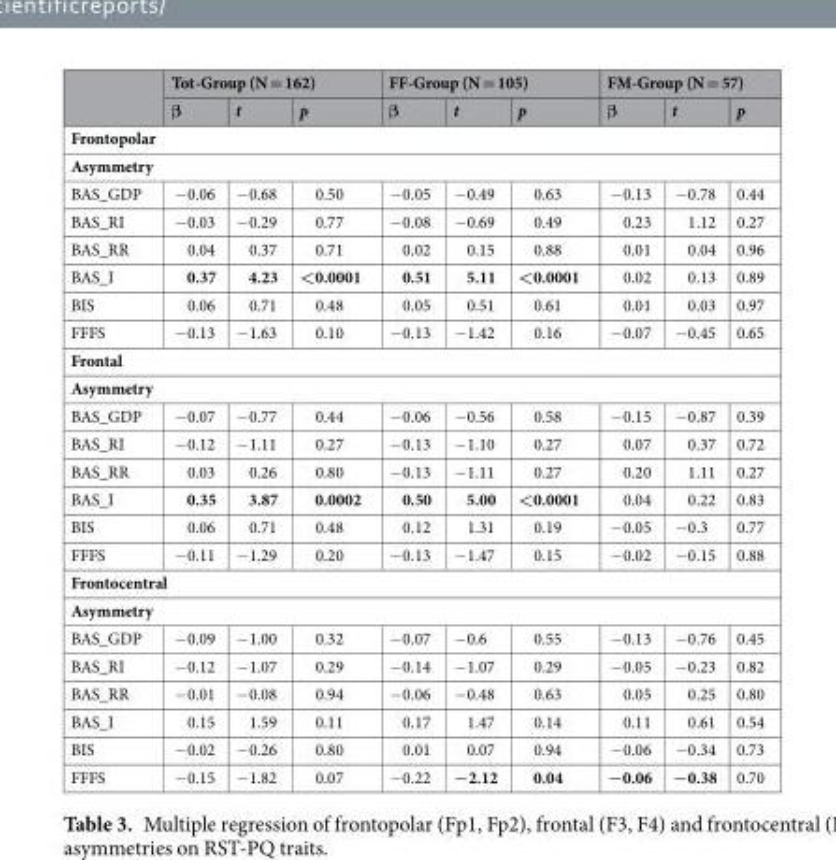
<table><thead><tr><td rowspan="2"></td><td colspan="3">Tot-Group (N = 162)</td><td colspan="3">FF-Group (N = 105)</td><td colspan="3">FM-Group (N = 57)</td></tr><tr><td>β</td><td>t</td><td>p</td><td>β</td><td>t</td><td>p</td><td>β</td><td>t</td><td>p</td></tr></thead><tbody><tr><td colspan="10">Frontopolar</td></tr><tr><td colspan="10">Asymmetry</td></tr><tr><td>BAS_GDP</td><td>−0.06</td><td>−0.68</td><td>0.50</td><td>−0.05</td><td>−0.49</td><td>0.63</td><td>−0.13</td><td>−0.78</td><td>0.44</td></tr><tr><td>BAS_RI</td><td>−0.03</td><td>−0.29</td><td>0.77</td><td>−0.08</td><td>−0.69</td><td>0.49</td><td>0.23</td><td>1.12</td><td>0.27</td></tr><tr><td>BAS_RR</td><td>0.04</td><td>0.37</td><td>0.71</td><td>0.02</td><td>0.15</td><td>0.88</td><td>0.01</td><td>0.04</td><td>0.96</td></tr><tr><td>BAS_I</td><td>0.37</td><td>4.23</td><td>&lt;0.0001</td><td>0.51</td><td>5.11</td><td>&lt;0.0001</td><td>0.02</td><td>0.13</td><td>0.89</td></tr><tr><td>BIS</td><td>0.06</td><td>0.71</td><td>0.48</td><td>0.05</td><td>0.51</td><td>0.61</td><td>0.01</td><td>0.03</td><td>0.97</td></tr><tr><td>FFFS</td><td>−0.13</td><td>−1.63</td><td>0.10</td><td>−0.13</td><td>−1.42</td><td>0.16</td><td>−0.07</td><td>−0.45</td><td>0.65</td></tr><tr><td colspan="10">Frontal</td></tr><tr><td colspan="10">Asymmetry</td></tr><tr><td>BAS_GDP</td><td>−0.07</td><td>−0.77</td><td>0.44</td><td>−0.06</td><td>−0.56</td><td>0.58</td><td>−0.15</td><td>−0.87</td><td>0.39</td></tr><tr><td>BAS_RI</td><td>−0.12</td><td>−1.11</td><td>0.27</td><td>−0.13</td><td>−1.10</td><td>0.27</td><td>0.07</td><td>0.37</td><td>0.72</td></tr><tr><td>BAS_RR</td><td>0.03</td><td>0.26</td><td>0.80</td><td>−0.13</td><td>−1.11</td><td>0.27</td><td>0.20</td><td>1.11</td><td>0.27</td></tr><tr><td>BAS_I</td><td>0.35</td><td>3.87</td><td>0.0002</td><td>0.50</td><td>5.00</td><td>&lt;0.0001</td><td>0.04</td><td>0.22</td><td>0.83</td></tr><tr><td>BIS</td><td>0.06</td><td>0.71</td><td>0.48</td><td>0.12</td><td>1.31</td><td>0.19</td><td>−0.05</td><td>−0.3</td><td>0.77</td></tr><tr><td>FFFS</td><td>−0.11</td><td>−1.29</td><td>0.20</td><td>−0.13</td><td>−1.47</td><td>0.15</td><td>−0.02</td><td>−0.15</td><td>0.88</td></tr><tr><td colspan="10">Frontocentral</td></tr><tr><td colspan="10">Asymmetry</td></tr><tr><td>BAS_GDP</td><td>−0.09</td><td>−1.00</td><td>0.32</td><td>−0.07</td><td>−0.6</td><td>0.55</td><td>−0.13</td><td>−0.76</td><td>0.45</td></tr><tr><td>BAS_RI</td><td>−0.12</td><td>−1.07</td><td>0.29</td><td>−0.14</td><td>−1.07</td><td>0.29</td><td>−0.05</td><td>−0.23</td><td>0.82</td></tr><tr><td>BAS_RR</td><td>−0.01</td><td>−0.08</td><td>0.94</td><td>−0.06</td><td>−0.48</td><td>0.63</td><td>0.05</td><td>0.25</td><td>0.80</td></tr><tr><td>BAS_I</td><td>0.15</td><td>1.59</td><td>0.11</td><td>0.17</td><td>1.47</td><td>0.14</td><td>0.11</td><td>0.61</td><td>0.54</td></tr><tr><td>BIS</td><td>−0.02</td><td>−0.26</td><td>0.80</td><td>0.01</td><td>0.07</td><td>0.94</td><td>−0.06</td><td>−0.34</td><td>0.73</td></tr><tr><td>FFFS</td><td>−0.15</td><td>−1.82</td><td>0.07</td><td>−0.22</td><td>−2.12</td><td>0.04</td><td>−0.06</td><td>−0.38</td><td>0.70</td></tr></tbody></table>